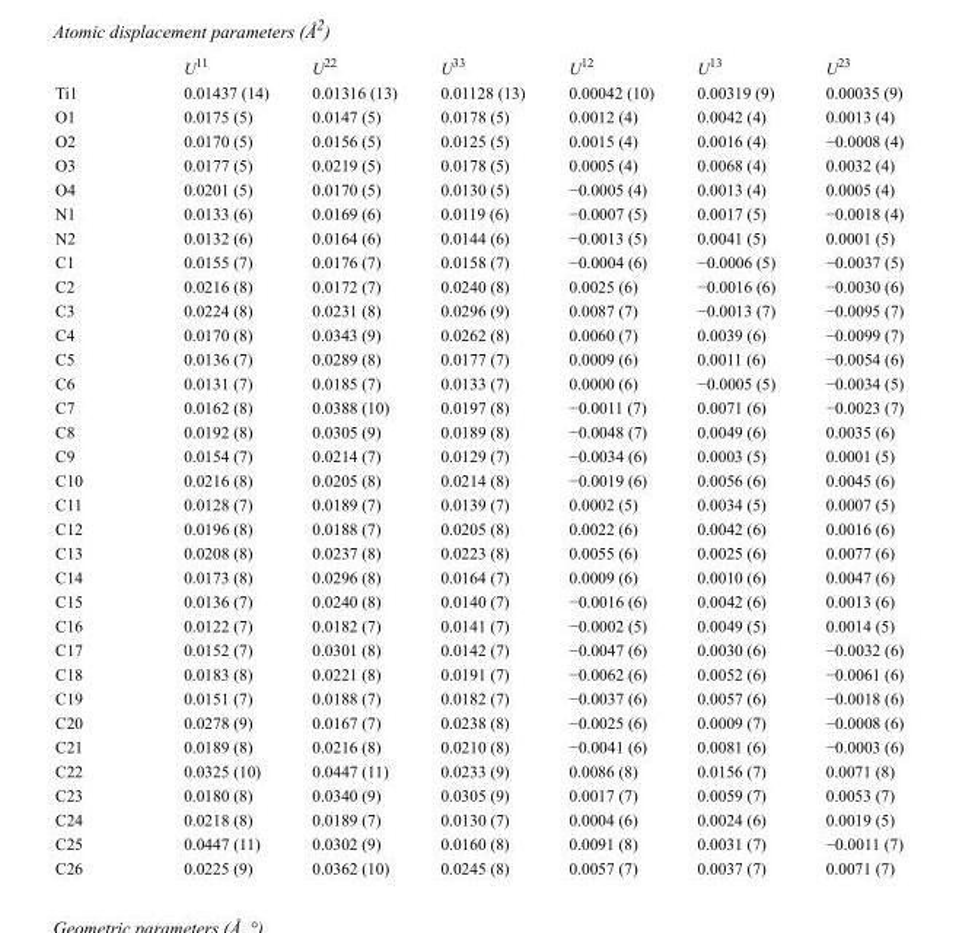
<table><thead><tr><td></td><td>U<sup>11</sup></td><td>U<sup>22</sup></td><td>U<sup>33</sup></td><td>U<sup>12</sup></td><td>U<sup>13</sup></td><td>U<sup>23</sup></td></tr></thead><tbody><tr><td>Ti1</td><td>0.01437 (14)</td><td>0.01316 (13)</td><td>0.01128 (13)</td><td>0.00042 (10)</td><td>0.00319 (9)</td><td>0.00035 (9)</td></tr><tr><td>O1</td><td>0.0175 (5)</td><td>0.0147 (5)</td><td>0.0178 (5)</td><td>0.0012 (4)</td><td>0.0042 (4)</td><td>0.0013 (4)</td></tr><tr><td>O2</td><td>0.0170 (5)</td><td>0.0156 (5)</td><td>0.0125 (5)</td><td>0.0015 (4)</td><td>0.0016 (4)</td><td>−0.0008 (4)</td></tr><tr><td>O3</td><td>0.0177 (5)</td><td>0.0219 (5)</td><td>0.0178 (5)</td><td>0.0005 (4)</td><td>0.0068 (4)</td><td>0.0032 (4)</td></tr><tr><td>O4</td><td>0.0201 (5)</td><td>0.0170 (5)</td><td>0.0130 (5)</td><td>−0.0005 (4)</td><td>0.0013 (4)</td><td>0.0005 (4)</td></tr><tr><td>N1</td><td>0.0133 (6)</td><td>0.0169 (6)</td><td>0.0119 (6)</td><td>−0.0007 (5)</td><td>0.0017 (5)</td><td>−0.0018 (4)</td></tr><tr><td>N2</td><td>0.0132 (6)</td><td>0.0164 (6)</td><td>0.0144 (6)</td><td>−0.0013 (5)</td><td>0.0041 (5)</td><td>0.0001 (5)</td></tr><tr><td>C1</td><td>0.0155 (7)</td><td>0.0176 (7)</td><td>0.0158 (7)</td><td>−0.0004 (6)</td><td>−0.0006 (5)</td><td>−0.0037 (5)</td></tr><tr><td>C2</td><td>0.0216 (8)</td><td>0.0172 (7)</td><td>0.0240 (8)</td><td>0.0025 (6)</td><td>−0.0016 (6)</td><td>−0.0030 (6)</td></tr><tr><td>C3</td><td>0.0224 (8)</td><td>0.0231 (8)</td><td>0.0296 (9)</td><td>0.0087 (7)</td><td>−0.0013 (7)</td><td>−0.0095 (7)</td></tr><tr><td>C4</td><td>0.0170 (8)</td><td>0.0343 (9)</td><td>0.0262 (8)</td><td>0.0060 (7)</td><td>0.0039 (6)</td><td>−0.0099 (7)</td></tr><tr><td>C5</td><td>0.0136 (7)</td><td>0.0289 (8)</td><td>0.0177 (7)</td><td>0.0009 (6)</td><td>0.0011 (6)</td><td>−0.0054 (6)</td></tr><tr><td>C6</td><td>0.0131 (7)</td><td>0.0185 (7)</td><td>0.0133 (7)</td><td>0.0000 (6)</td><td>−0.0005 (5)</td><td>−0.0034 (5)</td></tr><tr><td>C7</td><td>0.0162 (8)</td><td>0.0388 (10)</td><td>0.0197 (8)</td><td>−0.0011 (7)</td><td>0.0071 (6)</td><td>−0.0023 (7)</td></tr><tr><td>C8</td><td>0.0192 (8)</td><td>0.0305 (9)</td><td>0.0189 (8)</td><td>−0.0048 (7)</td><td>0.0049 (6)</td><td>0.0035 (6)</td></tr><tr><td>C9</td><td>0.0154 (7)</td><td>0.0214 (7)</td><td>0.0129 (7)</td><td>−0.0034 (6)</td><td>0.0003 (5)</td><td>0.0001 (5)</td></tr><tr><td>C10</td><td>0.0216 (8)</td><td>0.0205 (8)</td><td>0.0214 (8)</td><td>−0.0019 (6)</td><td>0.0056 (6)</td><td>0.0045 (6)</td></tr><tr><td>C11</td><td>0.0128 (7)</td><td>0.0189 (7)</td><td>0.0139 (7)</td><td>0.0002 (5)</td><td>0.0034 (5)</td><td>0.0007 (5)</td></tr><tr><td>C12</td><td>0.0196 (8)</td><td>0.0188 (7)</td><td>0.0205 (8)</td><td>0.0022 (6)</td><td>0.0042 (6)</td><td>0.0016 (6)</td></tr><tr><td>C13</td><td>0.0208 (8)</td><td>0.0237 (8)</td><td>0.0223 (8)</td><td>0.0055 (6)</td><td>0.0025 (6)</td><td>0.0077 (6)</td></tr><tr><td>C14</td><td>0.0173 (8)</td><td>0.0296 (8)</td><td>0.0164 (7)</td><td>0.0009 (6)</td><td>0.0010 (6)</td><td>0.0047 (6)</td></tr><tr><td>C15</td><td>0.0136 (7)</td><td>0.0240 (8)</td><td>0.0140 (7)</td><td>−0.0016 (6)</td><td>0.0042 (6)</td><td>0.0013 (6)</td></tr><tr><td>C16</td><td>0.0122 (7)</td><td>0.0182 (7)</td><td>0.0141 (7)</td><td>−0.0002 (5)</td><td>0.0049 (5)</td><td>0.0014 (5)</td></tr><tr><td>C17</td><td>0.0152 (7)</td><td>0.0301 (8)</td><td>0.0142 (7)</td><td>−0.0047 (6)</td><td>0.0030 (6)</td><td>−0.0032 (6)</td></tr><tr><td>C18</td><td>0.0183 (8)</td><td>0.0221 (8)</td><td>0.0191 (7)</td><td>−0.0062 (6)</td><td>0.0052 (6)</td><td>−0.0061 (6)</td></tr><tr><td>C19</td><td>0.0151 (7)</td><td>0.0188 (7)</td><td>0.0182 (7)</td><td>−0.0037 (6)</td><td>0.0057 (6)</td><td>−0.0018 (6)</td></tr><tr><td>C20</td><td>0.0278 (9)</td><td>0.0167 (7)</td><td>0.0238 (8)</td><td>−0.0025 (6)</td><td>0.0009 (7)</td><td>−0.0008 (6)</td></tr><tr><td>C21</td><td>0.0189 (8)</td><td>0.0216 (8)</td><td>0.0210 (8)</td><td>−0.0041 (6)</td><td>0.0081 (6)</td><td>−0.0003 (6)</td></tr><tr><td>C22</td><td>0.0325 (10)</td><td>0.0447 (11)</td><td>0.0233 (9)</td><td>0.0086 (8)</td><td>0.0156 (7)</td><td>0.0071 (8)</td></tr><tr><td>C23</td><td>0.0180 (8)</td><td>0.0340 (9)</td><td>0.0305 (9)</td><td>0.0017 (7)</td><td>0.0059 (7)</td><td>0.0053 (7)</td></tr><tr><td>C24</td><td>0.0218 (8)</td><td>0.0189 (7)</td><td>0.0130 (7)</td><td>0.0004 (6)</td><td>0.0024 (6)</td><td>0.0019 (5)</td></tr><tr><td>C25</td><td>0.0447 (11)</td><td>0.0302 (9)</td><td>0.0160 (8)</td><td>0.0091 (8)</td><td>0.0031 (7)</td><td>−0.0011 (7)</td></tr><tr><td>C26</td><td>0.0225 (9)</td><td>0.0362 (10)</td><td>0.0245 (8)</td><td>0.0057 (7)</td><td>0.0037 (7)</td><td>0.0071 (7)</td></tr></tbody></table>